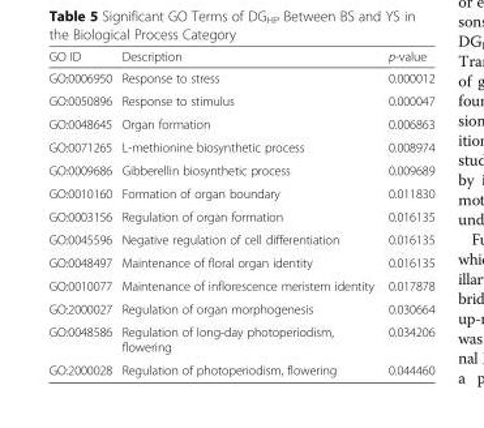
<table><thead><tr><td>GO ID</td><td>Description</td><td>p-value</td></tr></thead><tbody><tr><td>GO:0006950</td><td>Response to stress</td><td>0.000012</td></tr><tr><td>GO:0050896</td><td>Response to stimulus</td><td>0.000047</td></tr><tr><td>GO:0048645</td><td>Organ formation</td><td>0.006863</td></tr><tr><td>GO:0071265</td><td>L-methionine biosynthetic process</td><td>0.008974</td></tr><tr><td>GO:0009686</td><td>Gibberellin biosynthetic process</td><td>0.009689</td></tr><tr><td>GO:0010160</td><td>Formation of organ boundary</td><td>0.011830</td></tr><tr><td>GO:0003156</td><td>Regulation of organ formation</td><td>0.016135</td></tr><tr><td>GO:0045596</td><td>Negative regulation of cell differentiation</td><td>0.016135</td></tr><tr><td>GO:0048497</td><td>Maintenance of floral organ identity</td><td>0.016135</td></tr><tr><td>GO:0010077</td><td>Maintenance of inflorescence meristem identity</td><td>0.017878</td></tr><tr><td>GO:2000027</td><td>Regulation of organ morphogenesis</td><td>0.030664</td></tr><tr><td>GO:0048586</td><td>Regulation of long-day photoperiodism, flowering</td><td>0.034206</td></tr><tr><td>GO:2000028</td><td>Regulation of photoperiodism, flowering</td><td>0.044460</td></tr></tbody></table>